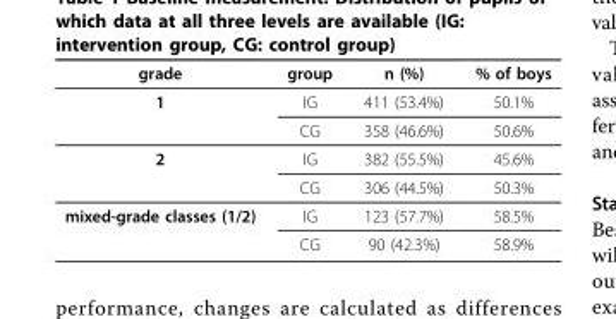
<table><thead><tr><td>grade</td><td>group</td><td>n (%)</td><td>% of boys</td></tr></thead><tbody><tr><td rowspan="2">1</td><td>IG</td><td>411 (53.4%)</td><td>50.1%</td></tr><tr><td>CG</td><td>358 (46.6%)</td><td>50.6%</td></tr><tr><td rowspan="2">2</td><td>IG</td><td>382 (55.5%)</td><td>45.6%</td></tr><tr><td>CG</td><td>306 (44.5%)</td><td>50.3%</td></tr><tr><td rowspan="2">mixed-grade classes (1/2)</td><td>IG</td><td>123 (57.7%)</td><td>58.5%</td></tr><tr><td>CG</td><td>90 (42.3%)</td><td>58.9%</td></tr></tbody></table>